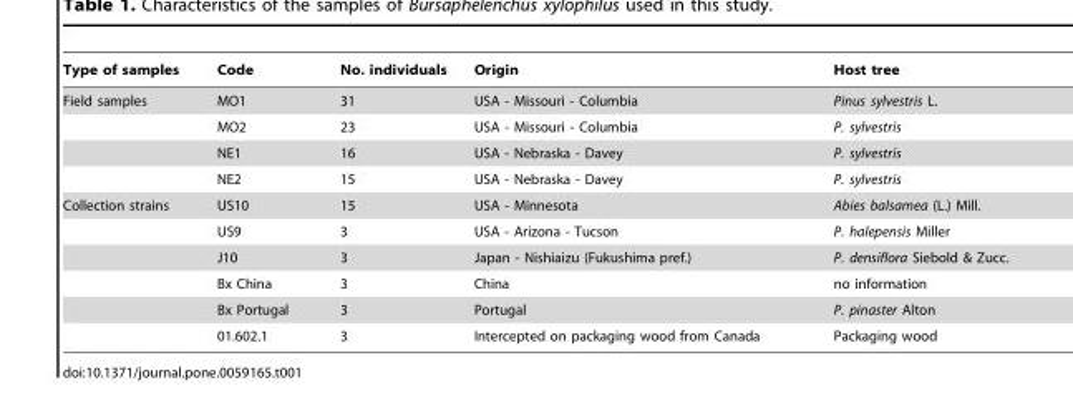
<table><thead><tr><td>Type of samples</td><td>Code</td><td>No. individuals</td><td>Origin</td><td>Host tree</td></tr></thead><tbody><tr><td rowspan="4">Field samples</td><td>MO1</td><td>31</td><td>USA - Missouri - Columbia</td><td>Pinus sylvestris L.</td></tr><tr><td>MO2</td><td>23</td><td>USA - Missouri - Columbia</td><td>P. sylvestris</td></tr><tr><td>NE1</td><td>16</td><td>USA - Nebraska - Davey</td><td>P. sylvestris</td></tr><tr><td>NE2</td><td>15</td><td>USA - Nebraska - Davey</td><td>P. sylvestris</td></tr><tr><td rowspan="6">Collection strains</td><td>US10</td><td>15</td><td>USA - Minnesota</td><td>Abies balsamea (L.) Mill.</td></tr><tr><td>US9</td><td>3</td><td>USA - Arizona - Tucson</td><td>P. halepensis Miller</td></tr><tr><td>J10</td><td>3</td><td>Japan - Nishiaizu (Fukushima pref.)</td><td>P. densiflora Siebold &amp; Zucc.</td></tr><tr><td>Bx China</td><td>3</td><td>China</td><td>no information</td></tr><tr><td>Bx Portugal</td><td>3</td><td>Portugal</td><td>P. pinaster Alton</td></tr><tr><td>01.602.1</td><td>3</td><td>Intercepted on packaging wood from Canada</td><td>Packaging wood</td></tr></tbody></table>